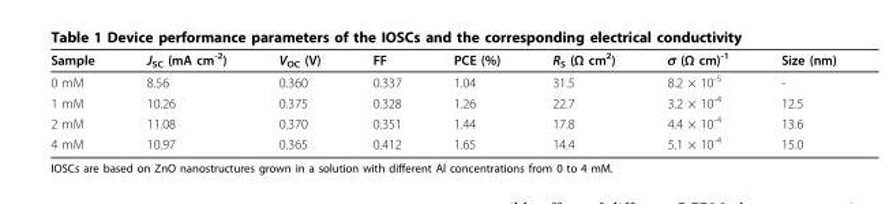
<table><thead><tr><td>Sample</td><td>J<sub>SC</sub> (mA cm<sup>-2</sup>)</td><td>V<sub>OC</sub> (V)</td><td>FF</td><td>PCE (%)</td><td>R<sub>S</sub> (Ω cm<sup>2</sup>)</td><td>σ (Ω cm)<sup>-1</sup></td><td>Size (nm)</td></tr></thead><tbody><tr><td>0 mM</td><td>8.56</td><td>0.360</td><td>0.337</td><td>1.04</td><td>31.5</td><td>8.2 × 10<sup>-5</sup></td><td>-</td></tr><tr><td>1 mM</td><td>10.26</td><td>0.375</td><td>0.328</td><td>1.26</td><td>22.7</td><td>3.2 × 10<sup>-4</sup></td><td>12.5</td></tr><tr><td>2 mM</td><td>11.08</td><td>0.370</td><td>0.351</td><td>1.44</td><td>17.8</td><td>4.4 × 10<sup>-4</sup></td><td>13.6</td></tr><tr><td>4 mM</td><td>10.97</td><td>0.365</td><td>0.412</td><td>1.65</td><td>14.4</td><td>5.1 × 10<sup>-4</sup></td><td>15.0</td></tr></tbody></table>